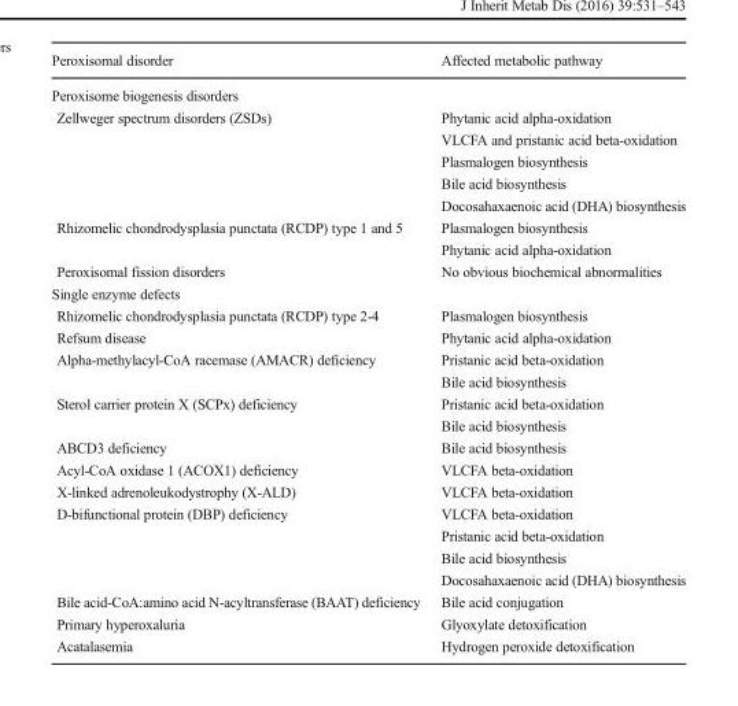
<table><thead><tr><td>Peroxisomal disorder</td><td>Affected metabolic pathway</td></tr></thead><tbody><tr><td colspan="2">Peroxisome biogenesis disorders</td></tr><tr><td rowspan="5">Zellweger spectrum disorders (ZSDs)</td><td>Phytanic acid alpha-oxidation</td></tr><tr><td>VLCFA and pristanic acid beta-oxidation</td></tr><tr><td>Plasmalogen biosynthesis</td></tr><tr><td>Bile acid biosynthesis</td></tr><tr><td>Docosahaxaenoic acid (DHA) biosynthesis</td></tr><tr><td rowspan="2">Rhizomelic chondrodysplasia punctata (RCDP) type 1 and 5</td><td>Plasmalogen biosynthesis</td></tr><tr><td>Phytanic acid alpha-oxidation</td></tr><tr><td>Peroxisomal fission disorders</td><td>No obvious biochemical abnormalities</td></tr><tr><td colspan="2">Single enzyme defects</td></tr><tr><td>Rhizomelic chondrodysplasia punctata (RCDP) type 2-4</td><td>Plasmalogen biosynthesis</td></tr><tr><td>Refsum disease</td><td>Phytanic acid alpha-oxidation</td></tr><tr><td rowspan="2">Alpha-methylacyl-CoA racemase (AMACR) deficiency</td><td>Pristanic acid beta-oxidation</td></tr><tr><td>Bile acid biosynthesis</td></tr><tr><td rowspan="2">Sterol carrier protein X (SCPx) deficiency</td><td>Pristanic acid beta-oxidation</td></tr><tr><td>Bile acid biosynthesis</td></tr><tr><td>ABCD3 deficiency</td><td>Bile acid biosynthesis</td></tr><tr><td>Acyl-CoA oxidase 1 (ACOX1) deficiency</td><td>VLCFA beta-oxidation</td></tr><tr><td>X-linked adrenoleukodystrophy (X-ALD)</td><td>VLCFA beta-oxidation</td></tr><tr><td rowspan="4">D-bifunctional protein (DBP) deficiency</td><td>VLCFA beta-oxidation</td></tr><tr><td>Pristanic acid beta-oxidation</td></tr><tr><td>Bile acid biosynthesis</td></tr><tr><td>Docosahaxaenoic acid (DHA) biosynthesis</td></tr><tr><td>Bile acid-CoA:amino acid N-acyltransferase (BAAT) deficiency</td><td>Bile acid conjugation</td></tr><tr><td>Primary hyperoxaluria</td><td>Glyoxylate detoxification</td></tr><tr><td>Acatalasemia</td><td>Hydrogen peroxide detoxification</td></tr></tbody></table>